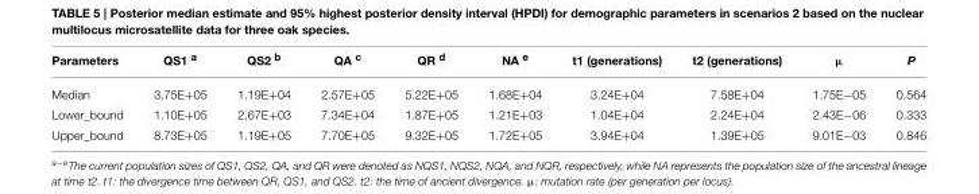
<table><thead><tr><td>Parameters</td><td>QS1 <sup>a</sup></td><td>QS2 <sup>b</sup></td><td>QA <sup>c</sup></td><td>QR <sup>d</sup></td><td>NA <sup>e</sup></td><td>t1 (generations)</td><td>t2 (generations)</td><td>µ</td><td>P</td></tr></thead><tbody><tr><td>Median</td><td>3.75E+05</td><td>1.19E+04</td><td>2.57E+05</td><td>5.22E+05</td><td>1.68E+04</td><td>3.24E+04</td><td>7.58E+04</td><td>1.75E−05</td><td>0.564</td></tr><tr><td>Lower_bound</td><td>1.10E+05</td><td>2.67E+03</td><td>7.34E+04</td><td>1.87E+05</td><td>1.21E+03</td><td>1.04E+04</td><td>2.24E+04</td><td>2.43E−06</td><td>0.333</td></tr><tr><td>Upper_bound</td><td>8.73E+05</td><td>1.19E+05</td><td>7.70E+05</td><td>9.32E+05</td><td>1.72E+05</td><td>3.94E+04</td><td>1.39E+05</td><td>9.01E−03</td><td>0.846</td></tr></tbody></table>